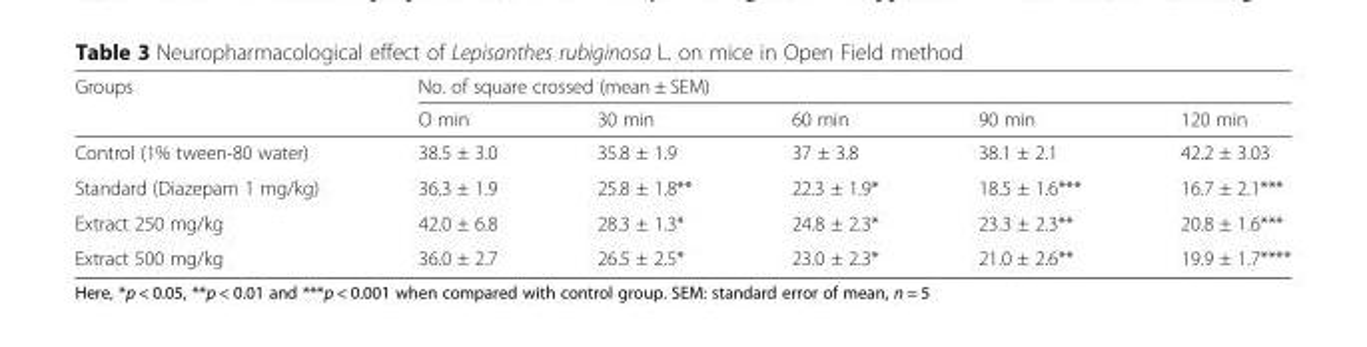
<table><thead><tr><td rowspan="2">Groups</td><td colspan="5">No. of square crossed (mean ± SEM)</td></tr><tr><td>O min</td><td>30 min</td><td>60 min</td><td>90 min</td><td>120 min</td></tr></thead><tbody><tr><td>Control (1% tween-80 water)</td><td>38.5 ± 3.0</td><td>35.8 ± 1.9</td><td>37 ± 3.8</td><td>38.1 ± 2.1</td><td>42.2 ± 3.03</td></tr><tr><td>Standard (Diazepam 1 mg/kg)</td><td>36.3 ± 1.9</td><td>25.8 ± 1.8**</td><td>22.3 ± 1.9*</td><td>18.5 ± 1.6***</td><td>16.7 ± 2.1***</td></tr><tr><td>Extract 250 mg/kg</td><td>42.0 ± 6.8</td><td>28.3 ± 1.3*</td><td>24.8 ± 2.3*</td><td>23.3 ± 2.3**</td><td>20.8 ± 1.6***</td></tr><tr><td>Extract 500 mg/kg</td><td>36.0 ± 2.7</td><td>26.5 ± 2.5*</td><td>23.0 ± 2.3*</td><td>21.0 ± 2.6**</td><td>19.9 ± 1.7****</td></tr></tbody></table>